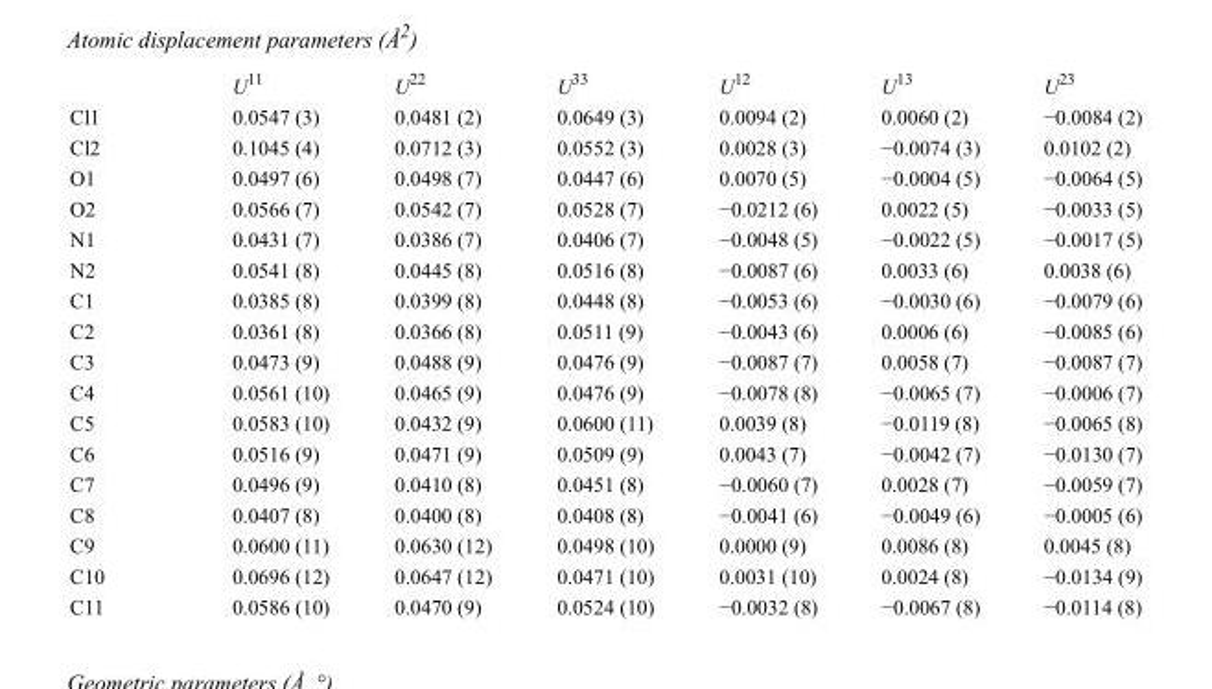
<table><thead><tr><td></td><td>U<sup>11</sup></td><td>U<sup>22</sup></td><td>U<sup>33</sup></td><td>U<sup>12</sup></td><td>U<sup>13</sup></td><td>U<sup>23</sup></td></tr></thead><tbody><tr><td>Cl1</td><td>0.0547 (3)</td><td>0.0481 (2)</td><td>0.0649 (3)</td><td>0.0094 (2)</td><td>0.0060 (2)</td><td>−0.0084 (2)</td></tr><tr><td>Cl2</td><td>0.1045 (4)</td><td>0.0712 (3)</td><td>0.0552 (3)</td><td>0.0028 (3)</td><td>−0.0074 (3)</td><td>0.0102 (2)</td></tr><tr><td>O1</td><td>0.0497 (6)</td><td>0.0498 (7)</td><td>0.0447 (6)</td><td>0.0070 (5)</td><td>−0.0004 (5)</td><td>−0.0064 (5)</td></tr><tr><td>O2</td><td>0.0566 (7)</td><td>0.0542 (7)</td><td>0.0528 (7)</td><td>−0.0212 (6)</td><td>0.0022 (5)</td><td>−0.0033 (5)</td></tr><tr><td>N1</td><td>0.0431 (7)</td><td>0.0386 (7)</td><td>0.0406 (7)</td><td>−0.0048 (5)</td><td>−0.0022 (5)</td><td>−0.0017 (5)</td></tr><tr><td>N2</td><td>0.0541 (8)</td><td>0.0445 (8)</td><td>0.0516 (8)</td><td>−0.0087 (6)</td><td>0.0033 (6)</td><td>0.0038 (6)</td></tr><tr><td>C1</td><td>0.0385 (8)</td><td>0.0399 (8)</td><td>0.0448 (8)</td><td>−0.0053 (6)</td><td>−0.0030 (6)</td><td>−0.0079 (6)</td></tr><tr><td>C2</td><td>0.0361 (8)</td><td>0.0366 (8)</td><td>0.0511 (9)</td><td>−0.0043 (6)</td><td>0.0006 (6)</td><td>−0.0085 (6)</td></tr><tr><td>C3</td><td>0.0473 (9)</td><td>0.0488 (9)</td><td>0.0476 (9)</td><td>−0.0087 (7)</td><td>0.0058 (7)</td><td>−0.0087 (7)</td></tr><tr><td>C4</td><td>0.0561 (10)</td><td>0.0465 (9)</td><td>0.0476 (9)</td><td>−0.0078 (8)</td><td>−0.0065 (7)</td><td>−0.0006 (7)</td></tr><tr><td>C5</td><td>0.0583 (10)</td><td>0.0432 (9)</td><td>0.0600 (11)</td><td>0.0039 (8)</td><td>−0.0119 (8)</td><td>−0.0065 (8)</td></tr><tr><td>C6</td><td>0.0516 (9)</td><td>0.0471 (9)</td><td>0.0509 (9)</td><td>0.0043 (7)</td><td>−0.0042 (7)</td><td>−0.0130 (7)</td></tr><tr><td>C7</td><td>0.0496 (9)</td><td>0.0410 (8)</td><td>0.0451 (8)</td><td>−0.0060 (7)</td><td>0.0028 (7)</td><td>−0.0059 (7)</td></tr><tr><td>C8</td><td>0.0407 (8)</td><td>0.0400 (8)</td><td>0.0408 (8)</td><td>−0.0041 (6)</td><td>−0.0049 (6)</td><td>−0.0005 (6)</td></tr><tr><td>C9</td><td>0.0600 (11)</td><td>0.0630 (12)</td><td>0.0498 (10)</td><td>0.0000 (9)</td><td>0.0086 (8)</td><td>0.0045 (8)</td></tr><tr><td>C10</td><td>0.0696 (12)</td><td>0.0647 (12)</td><td>0.0471 (10)</td><td>0.0031 (10)</td><td>0.0024 (8)</td><td>−0.0134 (9)</td></tr><tr><td>C11</td><td>0.0586 (10)</td><td>0.0470 (9)</td><td>0.0524 (10)</td><td>−0.0032 (8)</td><td>−0.0067 (8)</td><td>−0.0114 (8)</td></tr></tbody></table>